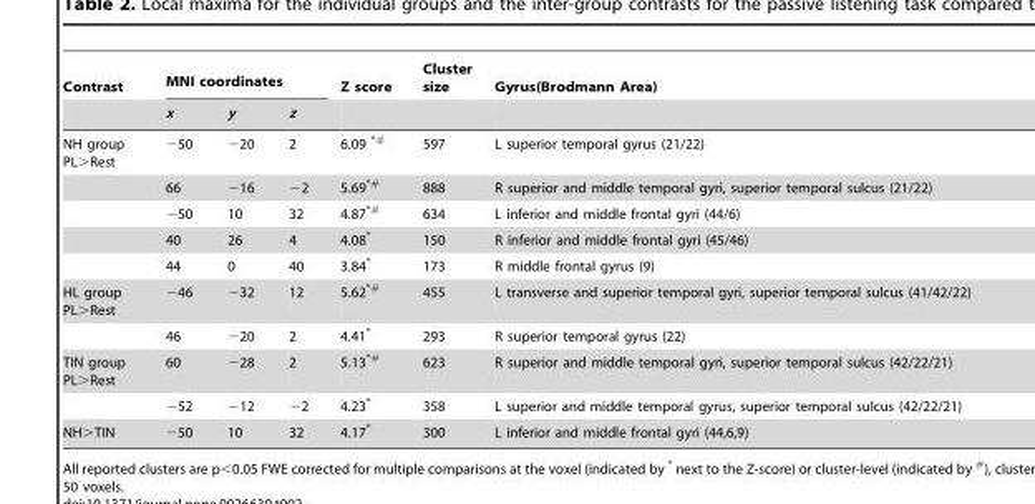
<table><thead><tr><td rowspan="2">Contrast</td><td colspan="3">MNI coordinates</td><td rowspan="2">Z score</td><td rowspan="2">Cluster size</td><td rowspan="2">Gyrus(Brodmann Area)</td></tr><tr><td>x</td><td>y</td><td>z</td></tr></thead><tbody><tr><td rowspan="5">NH group PL&gt;Rest</td><td>−50</td><td>−20</td><td>2</td><td>6.09 <sup>*#</sup></td><td>597</td><td>L superior temporal gyrus (21/22)</td></tr><tr><td>66</td><td>−16</td><td>−2</td><td>5.69<sup>*#</sup></td><td>888</td><td>R superior and middle temporal gyri, superior temporal sulcus (21/22)</td></tr><tr><td>−50</td><td>10</td><td>32</td><td>4.87<sup>*#</sup></td><td>634</td><td>L inferior and middle frontal gyri (44/6)</td></tr><tr><td>40</td><td>26</td><td>4</td><td>4.08*</td><td>150</td><td>R inferior and middle frontal gyri (45/46)</td></tr><tr><td>44</td><td>0</td><td>40</td><td>3.84*</td><td>173</td><td>R middle frontal gyrus (9)</td></tr><tr><td rowspan="2">HL group PL&gt;Rest</td><td>−46</td><td>−32</td><td>12</td><td>5.62<sup>*#</sup></td><td>455</td><td>L transverse and superior temporal gyri, superior temporal sulcus (41/42/22)</td></tr><tr><td>46</td><td>−20</td><td>2</td><td>4.41*</td><td>293</td><td>R superior temporal gyrus (22)</td></tr><tr><td rowspan="2">TIN group PL&gt;Rest</td><td>60</td><td>−28</td><td>2</td><td>5.13<sup>*#</sup></td><td>623</td><td>R superior and middle temporal gyri, superior temporal sulcus (42/22/21)</td></tr><tr><td>−52</td><td>−12</td><td>−2</td><td>4.23*</td><td>358</td><td>L superior and middle temporal gyrus, superior temporal sulcus (42/22/21)</td></tr><tr><td>NH&gt;TIN</td><td>−50</td><td>10</td><td>32</td><td>4.17*</td><td>300</td><td>L inferior and middle frontal gyri (44,6,9)</td></tr></tbody></table>